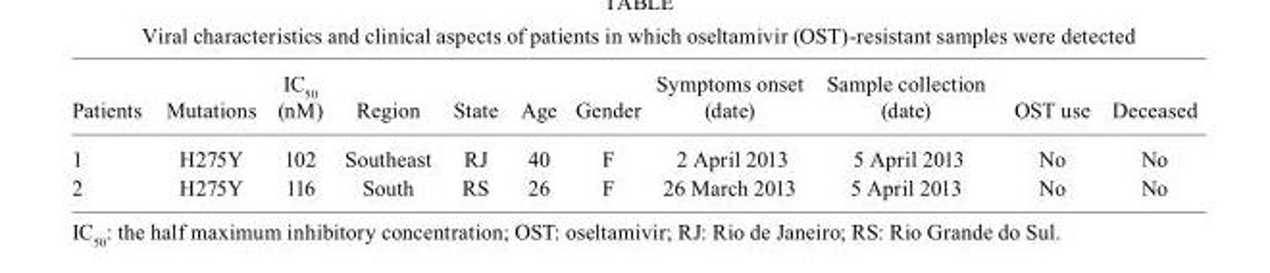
<table><thead><tr><td>Patients</td><td>Mutations</td><td>IC<sub>50</sub> (nM)</td><td>Region</td><td>State</td><td>Age</td><td>Gender</td><td>Symptoms onset (date)</td><td>Sample collection (date)</td><td>OST use</td><td>Deceased</td></tr></thead><tbody><tr><td>1</td><td>H275Y</td><td>102</td><td>Southeast</td><td>RJ</td><td>40</td><td>F</td><td>2 April 2013</td><td>5 April 2013</td><td>No</td><td>No</td></tr><tr><td>2</td><td>H275Y</td><td>116</td><td>South</td><td>RS</td><td>26</td><td>F</td><td>26 March 2013</td><td>5 April 2013</td><td>No</td><td>No</td></tr></tbody></table>